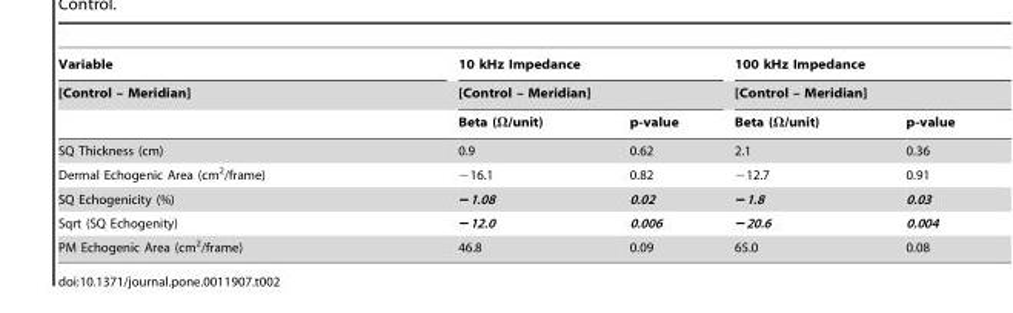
<table><thead><tr><td rowspan="3">Variable [Control – Meridian]</td><td rowspan="2" colspan="2">10 kHz Impedance [Control – Meridian]</td><td rowspan="2" colspan="2">100 kHz Impedance [Control – Meridian]</td></tr><tr></tr><tr><td>Beta (Ω/unit)</td><td>p-value</td><td>Beta (Ω/unit)</td><td>p-value</td></tr></thead><tbody><tr><td>SQ Thickness (cm)</td><td>0.9</td><td>0.62</td><td>2.1</td><td>0.36</td></tr><tr><td>Dermal Echogenic Area (cm<sup>2</sup>/frame)</td><td>−16.1</td><td>0.82</td><td>−12.7</td><td>0.91</td></tr><tr><td>SQ Echogenicity (%)</td><td>−1.08</td><td>0.02</td><td>−1.8</td><td>0.03</td></tr><tr><td>Sqrt (SQ Echogenity)</td><td>−12.0</td><td>0.006</td><td>−20.6</td><td>0.004</td></tr><tr><td>PM Echogenic Area (cm<sup>2</sup>/frame)</td><td>46.8</td><td>0.09</td><td>65.0</td><td>0.08</td></tr></tbody></table>